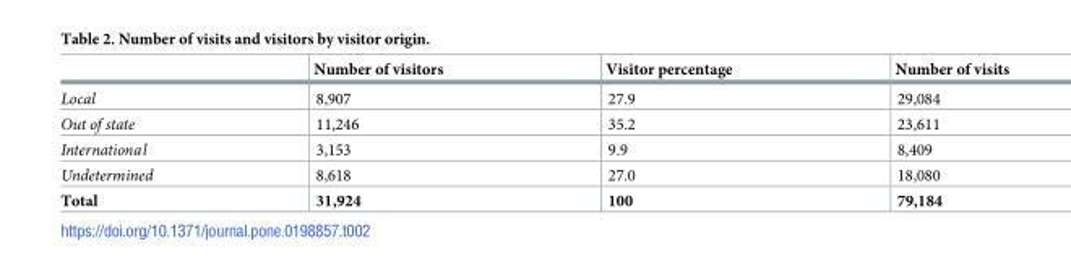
<table><thead><tr><td></td><td>Number of visitors</td><td>Visitor percentage</td><td>Number of visits</td></tr></thead><tbody><tr><td>Local</td><td>8,907</td><td>27.9</td><td>29,084</td></tr><tr><td>Out of state</td><td>11,246</td><td>35.2</td><td>23,611</td></tr><tr><td>International</td><td>3,153</td><td>9.9</td><td>8,409</td></tr><tr><td>Undetermined</td><td>8,618</td><td>27.0</td><td>18,080</td></tr><tr><td>Total</td><td>31,924</td><td>100</td><td>79,184</td></tr></tbody></table>